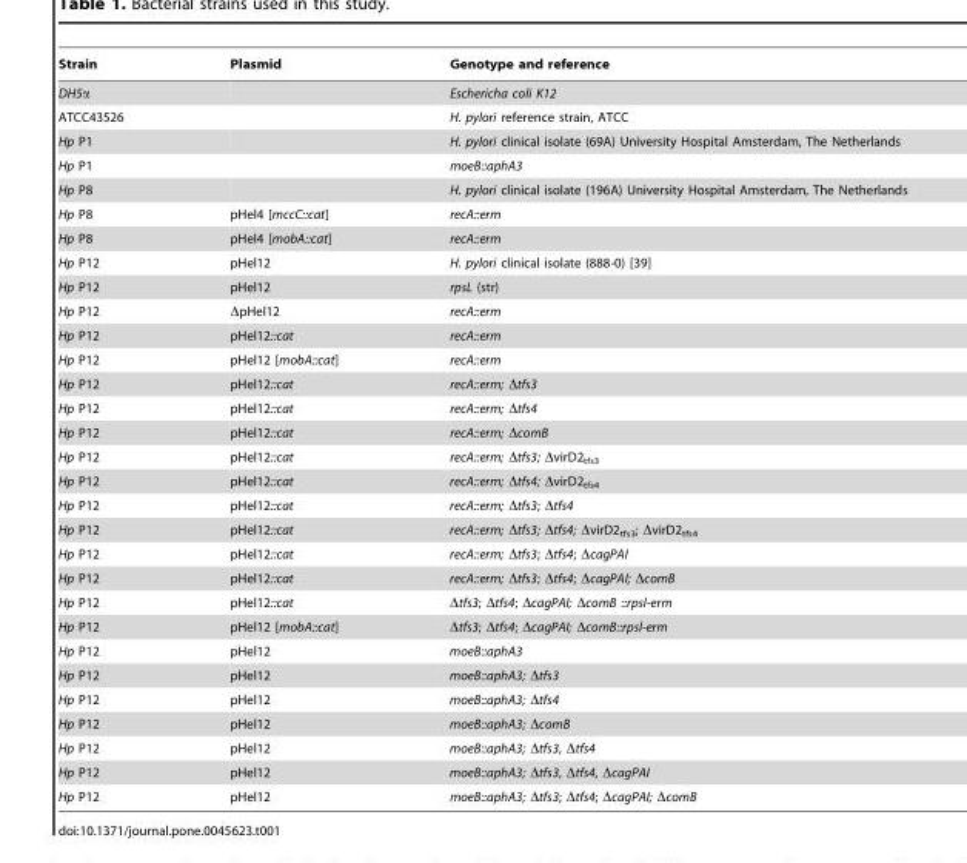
<table><thead><tr><td>Strain</td><td>Plasmid</td><td>Genotype and reference</td></tr></thead><tbody><tr><td>DH5α</td><td></td><td>Eschericha coli K12</td></tr><tr><td>ATCC43526</td><td></td><td>H. pylori reference strain, ATCC</td></tr><tr><td>Hp P1</td><td></td><td>H. pylori clinical isolate (69A) University Hospital Amsterdam, The Netherlands</td></tr><tr><td>Hp P1</td><td></td><td>moeB::aphA3</td></tr><tr><td>Hp P8</td><td></td><td>H. pylori clinical isolate (196A) University Hospital Amsterdam, The Netherlands</td></tr><tr><td>Hp P8</td><td>pHel4 [mccC::cat]</td><td>recA::erm</td></tr><tr><td>Hp P8</td><td>pHel4 [mobA::cat]</td><td>recA::erm</td></tr><tr><td>Hp P12</td><td>pHel12</td><td>H. pylori clinical isolate (888-0) [39]</td></tr><tr><td>Hp P12</td><td>pHel12</td><td>rpsL (str)</td></tr><tr><td>Hp P12</td><td>ΔpHel12</td><td>recA::erm</td></tr><tr><td>Hp P12</td><td>pHel12::cat</td><td>recA::erm</td></tr><tr><td>Hp P12</td><td>pHel12 [mobA::cat]</td><td>recA::erm</td></tr><tr><td>Hp P12</td><td>pHel12::cat</td><td>recA::erm; Δtfs3</td></tr><tr><td>Hp P12</td><td>pHel12::cat</td><td>recA::erm; Δtfs4</td></tr><tr><td>Hp P12</td><td>pHel12::cat</td><td>recA::erm; ΔcomB</td></tr><tr><td>Hp P12</td><td>pHel12::cat</td><td>recA::erm; Δtfs3; ΔvirD2<sub>tfs3</sub></td></tr><tr><td>Hp P12</td><td>pHel12::cat</td><td>recA::erm; Δtfs4; ΔvirD2<sub>tfs4</sub></td></tr><tr><td>Hp P12</td><td>pHel12::cat</td><td>recA::erm; Δtfs3; Δtfs4</td></tr><tr><td>Hp P12</td><td>pHel12::cat</td><td>recA::erm; Δtfs3; Δtfs4; ΔvirD2<sub>tfs3</sub>; ΔvirD2<sub>tfs4</sub></td></tr><tr><td>Hp P12</td><td>pHel12::cat</td><td>recA::erm; Δtfs3; Δtfs4; ΔcagPAI</td></tr><tr><td>Hp P12</td><td>pHel12::cat</td><td>recA::erm; Δtfs3; Δtfs4; ΔcagPAI; ΔcomB</td></tr><tr><td>Hp P12</td><td>pHel12::cat</td><td>Δtfs3; Δtfs4; ΔcagPAI; ΔcomB ::rpsl-erm</td></tr><tr><td>Hp P12</td><td>pHel12 [mobA::cat]</td><td>Δtfs3; Δtfs4; ΔcagPAI; ΔcomB::rpsl-erm</td></tr><tr><td>Hp P12</td><td>pHel12</td><td>moeB::aphA3</td></tr><tr><td>Hp P12</td><td>pHel12</td><td>moeB::aphA3; Δtfs3</td></tr><tr><td>Hp P12</td><td>pHel12</td><td>moeB::aphA3; Δtfs4</td></tr><tr><td>Hp P12</td><td>pHel12</td><td>moeB::aphA3; ΔcomB</td></tr><tr><td>Hp P12</td><td>pHel12</td><td>moeB::aphA3; Δtfs3, Δtfs4</td></tr><tr><td>Hp P12</td><td>pHel12</td><td>moeB::aphA3; Δtfs3, Δtfs4, ΔcagPAI</td></tr><tr><td>Hp P12</td><td>pHel12</td><td>moeB::aphA3; Δtfs3; Δtfs4; ΔcagPAI; ΔcomB</td></tr></tbody></table>